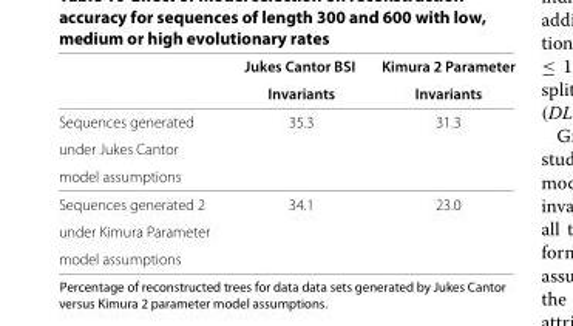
<table><thead><tr><td></td><td>Jukes Cantor BSI Invariants</td><td>Kimura 2 Parameter Invariants</td></tr></thead><tbody><tr><td>Sequences generated under Jukes Cantor model assumptions</td><td>35.3</td><td>31.3</td></tr><tr><td>Sequences generated 2 under Kimura Parameter model assumptions</td><td>34.1</td><td>23.0</td></tr></tbody></table>